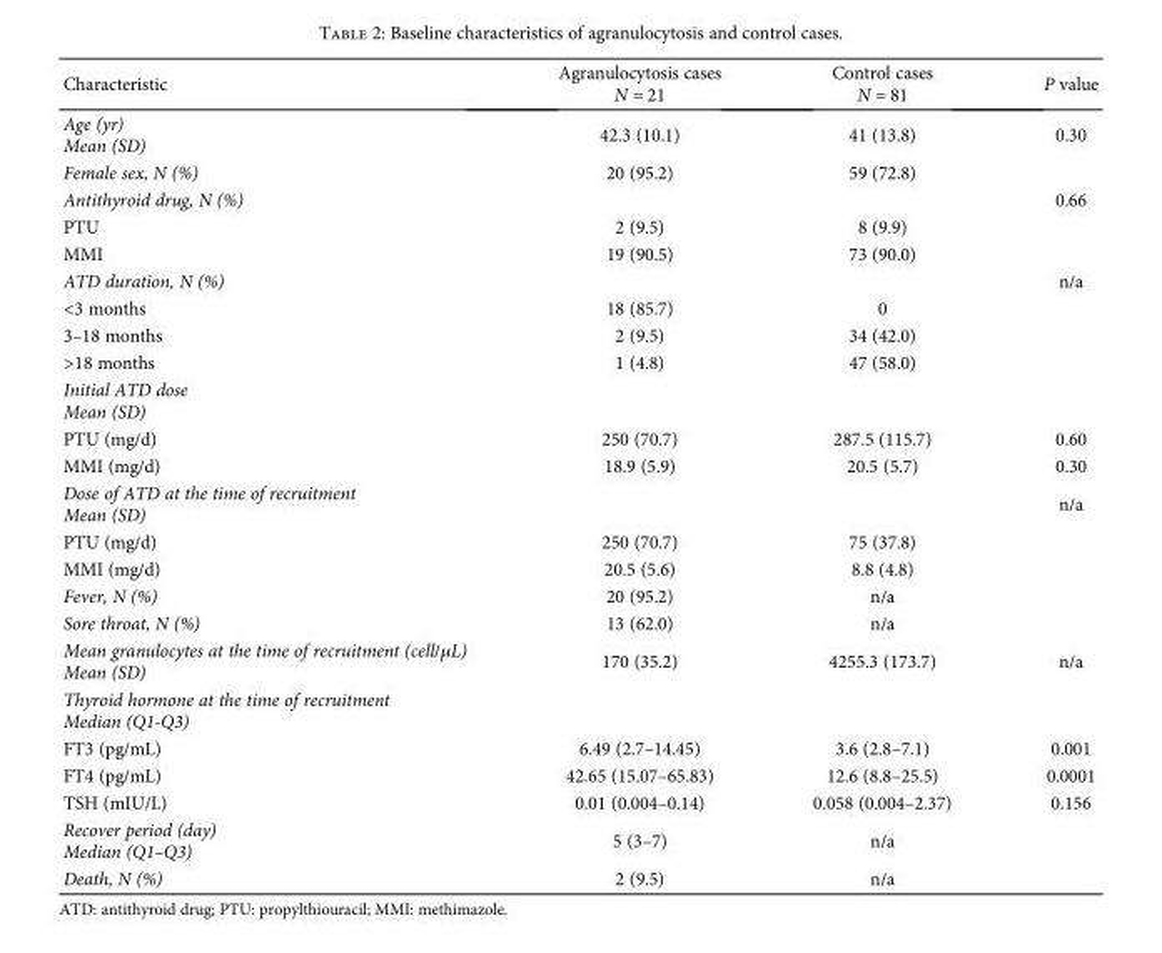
<table><thead><tr><td>Characteristic</td><td>Agranulocytosis cases N = 21</td><td>Control cases N = 81</td><td>P value</td></tr></thead><tbody><tr><td>Age (yr) Mean (SD)</td><td>42.3 (10.1)</td><td>41 (13.8)</td><td>0.30</td></tr><tr><td>Female sex, N (%)</td><td>20 (95.2)</td><td>59 (72.8)</td><td></td></tr><tr><td>Antithyroid drug, N (%)</td><td></td><td></td><td>0.66</td></tr><tr><td>PTU</td><td>2 (9.5)</td><td>8 (9.9)</td><td></td></tr><tr><td>MMI</td><td>19 (90.5)</td><td>73 (90.0)</td><td></td></tr><tr><td>ATD duration, N (%)</td><td></td><td></td><td>n/a</td></tr><tr><td>&lt;3 months</td><td>18 (85.7)</td><td>0</td><td></td></tr><tr><td>3–18 months</td><td>2 (9.5)</td><td>34 (42.0)</td><td></td></tr><tr><td>&gt;18 months</td><td>1 (4.8)</td><td>47 (58.0)</td><td></td></tr><tr><td colspan="4">Initial ATD dose Mean (SD)</td></tr><tr><td>PTU (mg/d)</td><td>250 (70.7)</td><td>287.5 (115.7)</td><td>0.60</td></tr><tr><td>MMI (mg/d)</td><td>18.9 (5.9)</td><td>20.5 (5.7)</td><td>0.30</td></tr><tr><td>Dose of ATD at the time of recruitment Mean (SD)</td><td></td><td></td><td>n/a</td></tr><tr><td>PTU (mg/d)</td><td>250 (70.7)</td><td>75 (37.8)</td><td></td></tr><tr><td>MMI (mg/d)</td><td>20.5 (5.6)</td><td>8.8 (4.8)</td><td></td></tr><tr><td>Fever, N (%)</td><td>20 (95.2)</td><td>n/a</td><td></td></tr><tr><td>Sore throat, N (%)</td><td>13 (62.0)</td><td>n/a</td><td></td></tr><tr><td>Mean granulocytes at the time of recruitment (cell/μL) Mean (SD)</td><td>170 (35.2)</td><td>4255.3 (173.7)</td><td>n/a</td></tr><tr><td colspan="4">Thyroid hormone at the time of recruitment Median (Q1-Q3)</td></tr><tr><td>FT3 (pg/mL)</td><td>6.49 (2.7–14.45)</td><td>3.6 (2.8–7.1)</td><td>0.001</td></tr><tr><td>FT4 (pg/mL)</td><td>42.65 (15.07–65.83)</td><td>12.6 (8.8–25.5)</td><td>0.0001</td></tr><tr><td>TSH (mIU/L)</td><td>0.01 (0.004–0.14)</td><td>0.058 (0.004–2.37)</td><td>0.156</td></tr><tr><td>Recover period (day) Median (Q1–Q3)</td><td>5 (3–7)</td><td>n/a</td><td></td></tr><tr><td>Death, N (%)</td><td>2 (9.5)</td><td>n/a</td><td></td></tr></tbody></table>